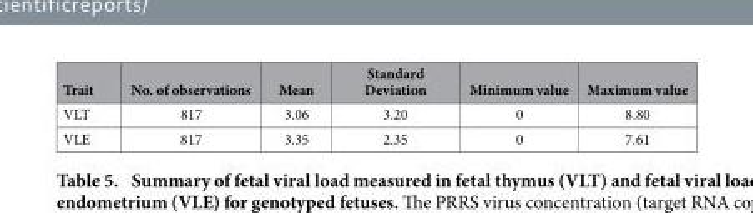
<table><thead><tr><td>Trait</td><td>No. of observations</td><td>Mean</td><td>Standard Deviation</td><td>Minimum value</td><td>Maximum value</td></tr></thead><tbody><tr><td>VLT</td><td>817</td><td>3.06</td><td>3.20</td><td>0</td><td>8.80</td></tr><tr><td>VLE</td><td>817</td><td>3.35</td><td>2.35</td><td>0</td><td>7.61</td></tr></tbody></table>